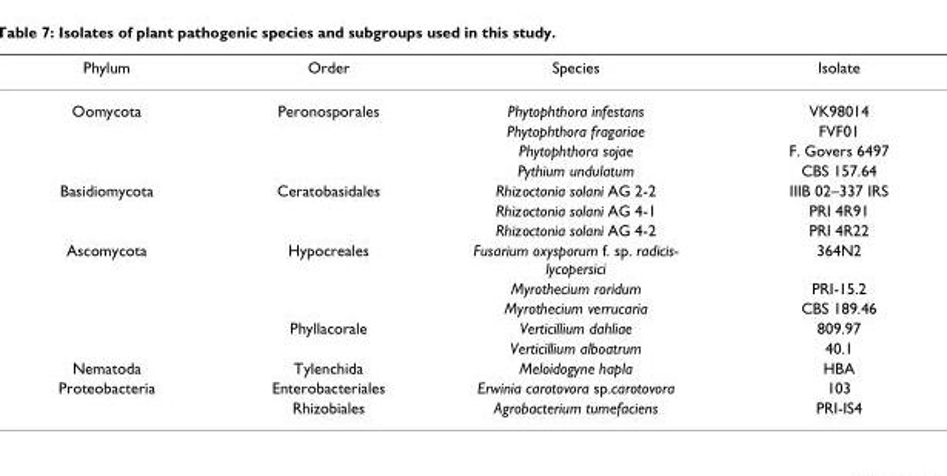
<table><thead><tr><td>Phylum</td><td>Order</td><td>Species</td><td>Isolate</td></tr></thead><tbody><tr><td rowspan="4">Oomycota</td><td>Peronosporales</td><td>Phytophthora infestans</td><td>VK98014</td></tr><tr><td></td><td>Phytophthora fragariae</td><td>FVF01</td></tr><tr><td></td><td>Phytophthora sojae</td><td>F. Govers 6497</td></tr><tr><td></td><td>Pythium undulatum</td><td>CBS 157.64</td></tr><tr><td rowspan="3">Basidiomycota</td><td>Ceratobasidales</td><td>Rhizoctonia solani AG 2-2</td><td>IIIB 02–337 IRS</td></tr><tr><td></td><td>Rhizoctonia solani AG 4-1</td><td>PRI 4R91</td></tr><tr><td></td><td>Rhizoctonia solani AG 4-2</td><td>PRI 4R22</td></tr><tr><td rowspan="5">Ascomycota</td><td>Hypocreales</td><td>Fusarium oxysporum f. sp. radicis- lycopersici</td><td>364N2</td></tr><tr><td></td><td>Myrothecium roridum</td><td>PRI-15.2</td></tr><tr><td></td><td>Myrothecium verrucaria</td><td>CBS 189.46</td></tr><tr><td>Phyllacorale</td><td>Verticillium dahliae</td><td>809.97</td></tr><tr><td></td><td>Verticillium alboatrum</td><td>40.1</td></tr><tr><td>Nematoda</td><td>Tylenchida</td><td>Meloidogyne hapla</td><td>HBA</td></tr><tr><td rowspan="2">Proteobacteria</td><td>Enterobacteriales</td><td>Erwinia carotovora sp.carotovora</td><td>103</td></tr><tr><td>Rhizobiales</td><td>Agrobacterium tumefaciens</td><td>PRI-IS4</td></tr></tbody></table>